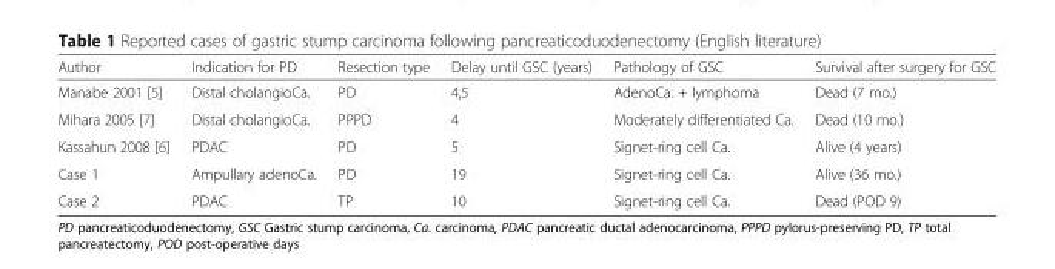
<table><thead><tr><td>Author</td><td>Indication for PD</td><td>Resection type</td><td>Delay until GSC (years)</td><td>Pathology of GSC</td><td>Survival after surgery for GSC</td></tr></thead><tbody><tr><td>Manabe 2001 [5]</td><td>Distal cholangioCa.</td><td>PD</td><td>4,5</td><td>AdenoCa. + lymphoma</td><td>Dead (7 mo.)</td></tr><tr><td>Mihara 2005 [7]</td><td>Distal cholangioCa.</td><td>PPPD</td><td>4</td><td>Moderately differentiated Ca.</td><td>Dead (10 mo.)</td></tr><tr><td>Kassahun 2008 [6]</td><td>PDAC</td><td>PD</td><td>5</td><td>Signet-ring cell Ca.</td><td>Alive (4 years)</td></tr><tr><td>Case 1</td><td>Ampullary adenoCa.</td><td>PD</td><td>19</td><td>Signet-ring cell Ca.</td><td>Alive (36 mo.)</td></tr><tr><td>Case 2</td><td>PDAC</td><td>TP</td><td>10</td><td>Signet-ring cell Ca.</td><td>Dead (POD 9)</td></tr></tbody></table>